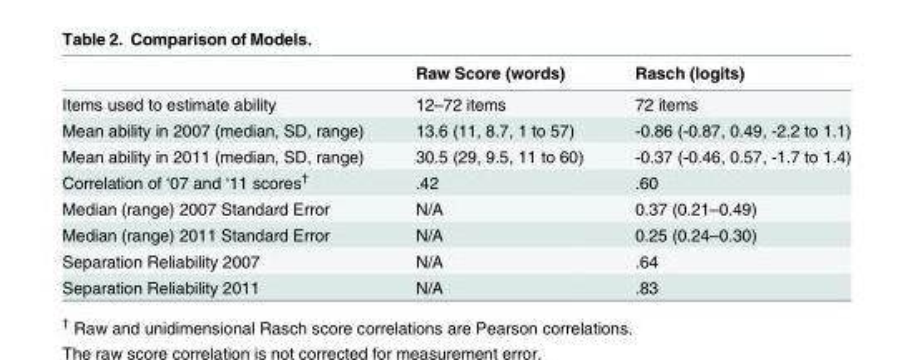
<table><thead><tr><td></td><td>Raw Score (words)</td><td>Rasch (logits)</td></tr></thead><tbody><tr><td>Items used to estimate ability</td><td>12–72 items</td><td>72 items</td></tr><tr><td>Mean ability in 2007 (median, SD, range)</td><td>13.6 (11, 8.7, 1 to 57)</td><td>-0.86 (-0.87, 0.49, -2.2 to 1.1)</td></tr><tr><td>Mean ability in 2011 (median, SD, range)</td><td>30.5 (29, 9.5, 11 to 60)</td><td>-0.37 (-0.46, 0.57, -1.7 to 1.4)</td></tr><tr><td>Correlation of ‘07 and ‘11 scores<sup>†</sup></td><td>.42</td><td>.60</td></tr><tr><td>Median (range) 2007 Standard Error</td><td>N/A</td><td>0.37 (0.21–0.49)</td></tr><tr><td>Median (range) 2011 Standard Error</td><td>N/A</td><td>0.25 (0.24–0.30)</td></tr><tr><td>Separation Reliability 2007</td><td>N/A</td><td>.64</td></tr><tr><td>Separation Reliability 2011</td><td>N/A</td><td>.83</td></tr></tbody></table>